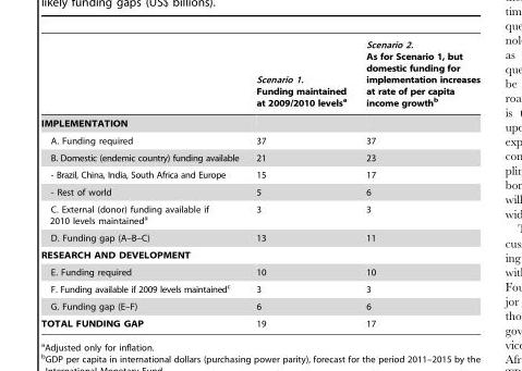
<table><thead><tr><td></td><td>Scenario 1. Funding maintained at 2009/2010 levels<sup>a</sup></td><td>Scenario 2. As for Scenario 1, but domestic funding for implementation increases at rate of per capita income growth<sup>b</sup></td></tr></thead><tbody><tr><td colspan="3">IMPLEMENTATION</td></tr><tr><td>A. Funding required</td><td>37</td><td>37</td></tr><tr><td>B. Domestic (endemic country) funding available</td><td>21</td><td>23</td></tr><tr><td>- Brazil, China, India, South Africa and Europe</td><td>15</td><td>17</td></tr><tr><td>- Rest of world</td><td>5</td><td>6</td></tr><tr><td>C. External (donor) funding available if 2010 levels maintained<sup>a</sup></td><td>3</td><td>3</td></tr><tr><td>D. Funding gap (A–B–C)</td><td>13</td><td>11</td></tr><tr><td colspan="3">RESEARCH AND DEVELOPMENT</td></tr><tr><td>E. Funding required</td><td>10</td><td>10</td></tr><tr><td>F. Funding available if 2009 levels maintained<sup>c</sup></td><td>3</td><td>3</td></tr><tr><td>G. Funding gap (E–F)</td><td>6</td><td>6</td></tr><tr><td>TOTAL FUNDING GAP</td><td>19</td><td>17</td></tr></tbody></table>